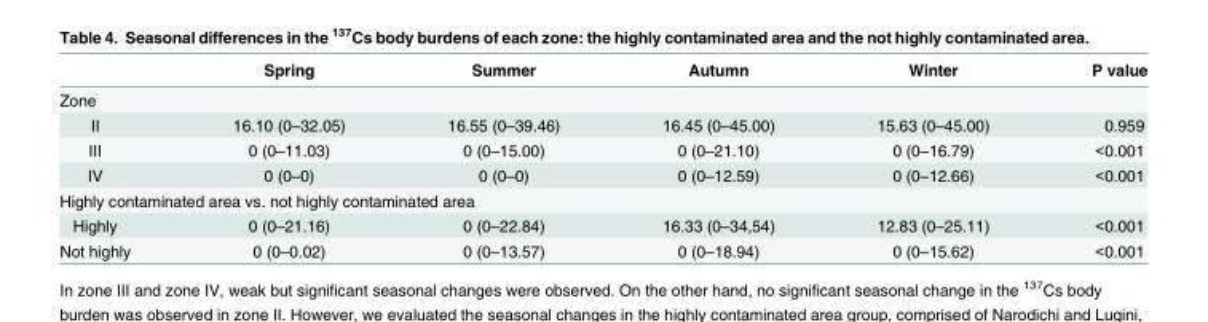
<table><thead><tr><td></td><td>Spring</td><td>Summer</td><td>Autumn</td><td>Winter</td><td>P value</td></tr></thead><tbody><tr><td colspan="6">Zone</td></tr><tr><td>II</td><td>16.10 (0–32.05)</td><td>16.55 (0–39.46)</td><td>16.45 (0–45.00)</td><td>15.63 (0–45.00)</td><td>0.959</td></tr><tr><td>III</td><td>0 (0–11.03)</td><td>0 (0–15.00)</td><td>0 (0–21.10)</td><td>0 (0–16.79)</td><td>&lt;0.001</td></tr><tr><td>IV</td><td>0 (0–0)</td><td>0 (0–0)</td><td>0 (0–12.59)</td><td>0 (0–12.66)</td><td>&lt;0.001</td></tr><tr><td colspan="6">Highly contaminated area vs. not highly contaminated area</td></tr><tr><td>Highly</td><td>0 (0–21.16)</td><td>0 (0–22.84)</td><td>16.33 (0–34,54)</td><td>12.83 (0–25.11)</td><td>&lt;0.001</td></tr><tr><td>Not highly</td><td>0 (0–0.02)</td><td>0 (0–13.57)</td><td>0 (0–18.94)</td><td>0 (0–15.62)</td><td>&lt;0.001</td></tr></tbody></table>